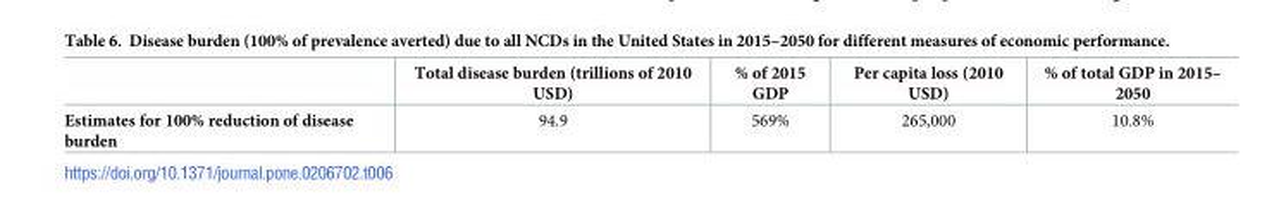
<table><thead><tr><td></td><td>Total disease burden (trillions of 2010 USD)</td><td>% of 2015 GDP</td><td>Per capita loss (2010 USD)</td><td>% of total GDP in 2015– 2050</td></tr></thead><tbody><tr><td>Estimates for 100% reduction of disease burden</td><td>94.9</td><td>569%</td><td>265,000</td><td>10.8%</td></tr></tbody></table>